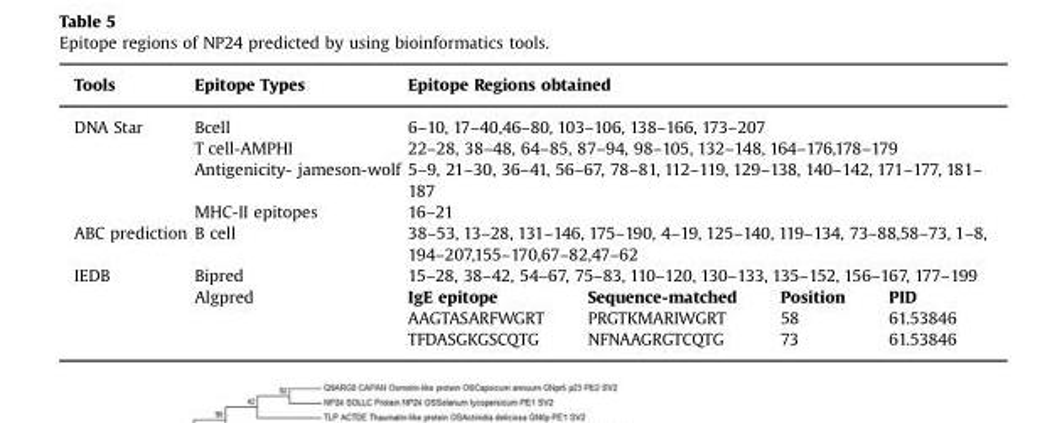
<table><thead><tr><td>Tools</td><td>Epitope Types</td><td colspan="4">Epitope Regions obtained</td></tr></thead><tbody><tr><td rowspan="4">DNA Star</td><td>Bcell</td><td colspan="4">6–10, 17–40,46–80, 103–106, 138–166, 173–207</td></tr><tr><td>T cell-AMPHI</td><td colspan="4">22–28, 38–48, 64–85, 87–94, 98–105, 132–148, 164–176,178–179</td></tr><tr><td>Antigenicity- jameson-wolf</td><td colspan="4">5–9, 21–30, 36–41, 56–67, 78–81, 112–119, 129–138, 140–142, 171–177, 181– 187</td></tr><tr><td>MHC-II epitopes</td><td colspan="4">16–21</td></tr><tr><td>ABC prediction</td><td>B cell</td><td colspan="4">38–53, 13–28, 131–146, 175–190, 4–19, 125–140, 119–134, 73–88,58–73, 1–8, 194–207,155–170,67–82,47–62</td></tr><tr><td rowspan="4">IEDB</td><td>Bipred</td><td colspan="4">15–28, 38–42, 54–67, 75–83, 110–120, 130–133, 135–152, 156–167, 177–199</td></tr><tr><td rowspan="3">Algpred</td><td>IgE epitope</td><td>Sequence-matched</td><td>Position</td><td>PID</td></tr><tr><td>AAGTASARFWGRT</td><td>PRGTKMARIWGRT</td><td>58</td><td>61.53846</td></tr><tr><td>TFDASGKGSCQTG</td><td>NFNAAGRGTCQTG</td><td>73</td><td>61.53846</td></tr></tbody></table>